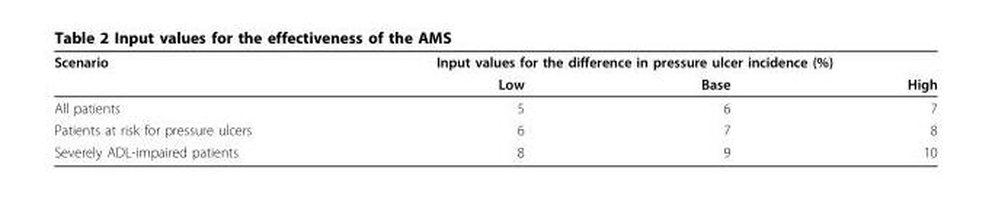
<table><thead><tr><td rowspan="2">Scenario</td><td colspan="3">Input values for the difference in pressure ulcer incidence (%)</td></tr><tr><td>Low</td><td>Base</td><td>High</td></tr></thead><tbody><tr><td>All patients</td><td>5</td><td>6</td><td>7</td></tr><tr><td>Patients at risk for pressure ulcers</td><td>6</td><td>7</td><td>8</td></tr><tr><td>Severely ADL-impaired patients</td><td>8</td><td>9</td><td>10</td></tr></tbody></table>